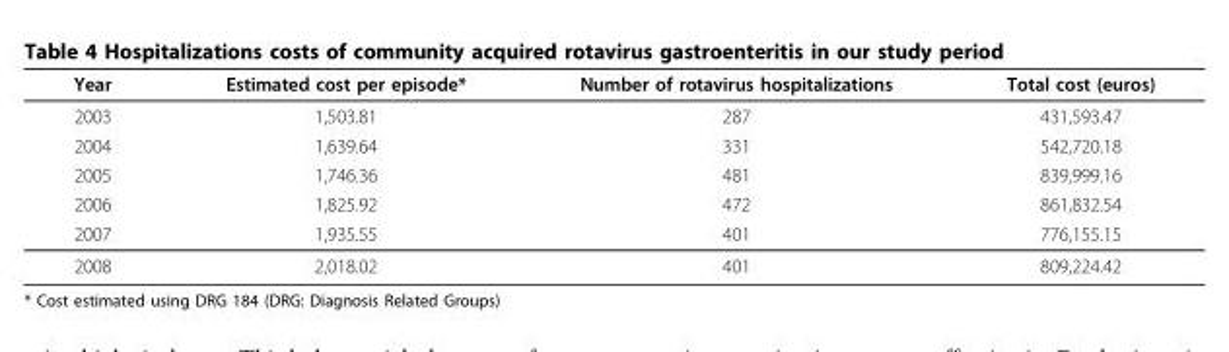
<table><thead><tr><td>Year</td><td>Estimated cost per episode*</td><td>Number of rotavirus hospitalizations</td><td>Total cost (euros)</td></tr></thead><tbody><tr><td>2003</td><td>1,503.81</td><td>287</td><td>431,593.47</td></tr><tr><td>2004</td><td>1,639.64</td><td>331</td><td>542,720.18</td></tr><tr><td>2005</td><td>1,746.36</td><td>481</td><td>839,999.16</td></tr><tr><td>2006</td><td>1,825.92</td><td>472</td><td>861,832.54</td></tr><tr><td>2007</td><td>1,935.55</td><td>401</td><td>776,155.15</td></tr><tr><td>2008</td><td>2,018.02</td><td>401</td><td>809,224.42</td></tr></tbody></table>